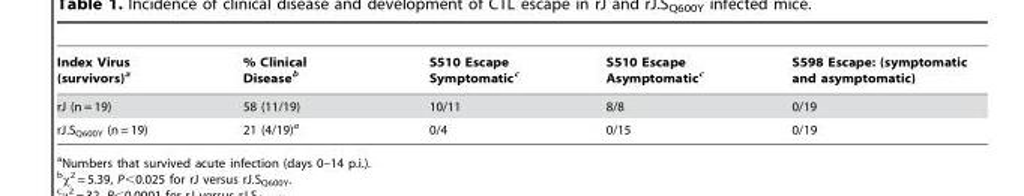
<table><thead><tr><td>Index Virus (survivors)<sup>a</sup></td><td>% Clinical Disease<sup>b</sup></td><td>S510 Escape Symptomatic<sup>c</sup></td><td>S510 Escape Asymptomatic<sup>c</sup></td><td>S598 Escape: (symptomatic and asymptomatic)</td></tr></thead><tbody><tr><td>rJ (n = 19)</td><td>58 (11/19)</td><td>10/11</td><td>8/8</td><td>0/19</td></tr><tr><td>rJ.S<sub>Q600Y</sub> (n = 19)</td><td>21 (4/19)<sup>a</sup></td><td>0/4</td><td>0/15</td><td>0/19</td></tr></tbody></table>